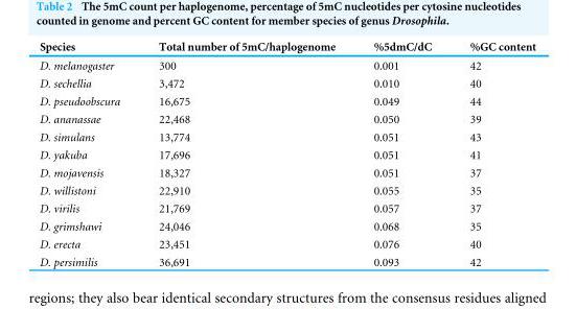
<table><thead><tr><td>Species</td><td>Total number of 5mC/haplogenome</td><td>%5dmC/dC</td><td>%GC content</td></tr></thead><tbody><tr><td>D. melanogaster</td><td>300</td><td>0.001</td><td>42</td></tr><tr><td>D. sechellia</td><td>3,472</td><td>0.010</td><td>40</td></tr><tr><td>D. pseudoobscura</td><td>16,675</td><td>0.049</td><td>44</td></tr><tr><td>D. ananassae</td><td>22,468</td><td>0.050</td><td>39</td></tr><tr><td>D. simulans</td><td>13,774</td><td>0.051</td><td>43</td></tr><tr><td>D. yakuba</td><td>17,696</td><td>0.051</td><td>41</td></tr><tr><td>D. mojavensis</td><td>18,327</td><td>0.051</td><td>37</td></tr><tr><td>D. willistoni</td><td>22,910</td><td>0.055</td><td>35</td></tr><tr><td>D. virilis</td><td>21,769</td><td>0.057</td><td>37</td></tr><tr><td>D. grimshawi</td><td>24,046</td><td>0.068</td><td>35</td></tr><tr><td>D. erecta</td><td>23,451</td><td>0.076</td><td>40</td></tr><tr><td>D. persimilis</td><td>36,691</td><td>0.093</td><td>42</td></tr></tbody></table>